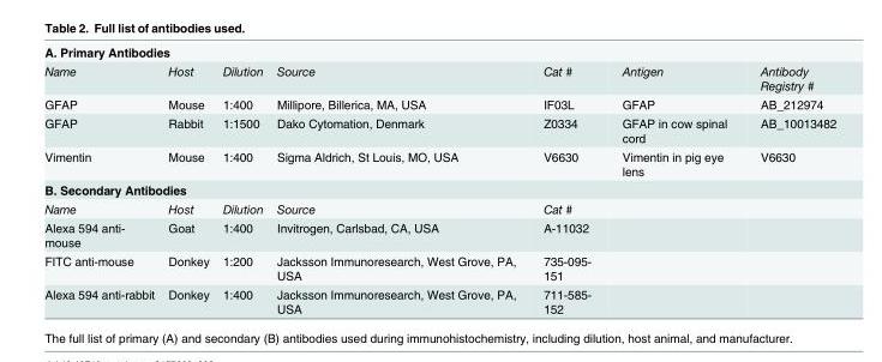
<table><tbody><tr><td colspan="7">A. Primary Antibodies</td></tr><tr><td>Name</td><td>Host</td><td>Dilution</td><td>Source</td><td>Cat #</td><td>Antigen</td><td>Antibody Registry #</td></tr><tr><td>GFAP</td><td>Mouse</td><td>1:400</td><td>Millipore, Billerica, MA, USA</td><td>IF03L</td><td>GFAP</td><td>AB_212974</td></tr><tr><td>GFAP</td><td>Rabbit</td><td>1:1500</td><td>Dako Cytomation, Denmark</td><td>Z0334</td><td>GFAP in cow spinal cord</td><td>AB_10013482</td></tr><tr><td>Vimentin</td><td>Mouse</td><td>1:400</td><td>Sigma Aldrich, St Louis, MO, USA</td><td>V6630</td><td>Vimentin in pig eye lens</td><td>V6630</td></tr><tr><td colspan="7">B. Secondary Antibodies</td></tr><tr><td>Name</td><td>Host</td><td>Dilution</td><td>Source</td><td>Cat #</td><td></td><td></td></tr><tr><td>Alexa 594 anti- mouse</td><td>Goat</td><td>1:400</td><td>Invitrogen, Carlsbad, CA, USA</td><td>A-11032</td><td></td><td></td></tr><tr><td>FITC anti-mouse</td><td>Donkey</td><td>1:200</td><td>Jacksson Immunoresearch, West Grove, PA, USA</td><td>735-095- 151</td><td></td><td></td></tr><tr><td>Alexa 594 anti-rabbit</td><td>Donkey</td><td>1:400</td><td>Jacksson Immunoresearch, West Grove, PA, USA</td><td>711-585- 152</td><td></td><td></td></tr></tbody></table>